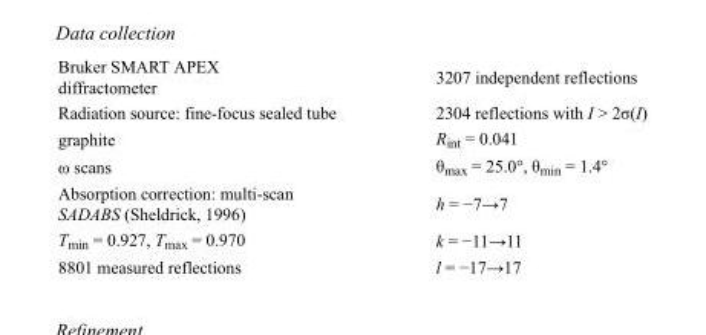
<table><tbody><tr><td>Bruker SMART APEX diffractometer</td><td>3207 independent reflections</td></tr><tr><td>Radiation source: fine-focus sealed tube</td><td>2304 reflections with I &gt; 2σ(I)</td></tr><tr><td>graphite</td><td>R<sub>int</sub> = 0.041</td></tr><tr><td>ω scans</td><td>θ<sub>max</sub> = 25.0°, θ<sub>min</sub> = 1.4°</td></tr><tr><td>Absorption correction: multi-scan SADABS (Sheldrick, 1996)</td><td>h = −7→7</td></tr><tr><td>T<sub>min</sub> = 0.927, T<sub>max</sub> = 0.970</td><td>k = −11→11</td></tr><tr><td>8801 measured reflections</td><td>l = −17→17</td></tr></tbody></table>